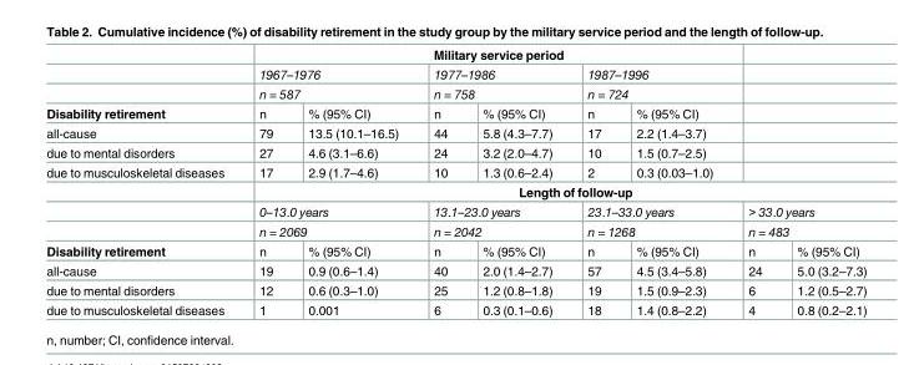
<table><thead><tr><td rowspan="4">Disability retirement</td><td colspan="6">Military service period</td><td></td><td></td></tr><tr><td rowspan="2" colspan="2">1967–1976 n = 587</td><td rowspan="2" colspan="2">1977–1986 n = 758</td><td rowspan="2" colspan="2">1987–1996 n = 724</td><td rowspan="3" colspan="2"></td></tr><tr></tr><tr><td>n</td><td>% (95% CI)</td><td>n</td><td>% (95% CI)</td><td>n</td><td>% (95% CI)</td></tr></thead><tbody><tr><td>all-cause</td><td>79</td><td>13.5 (10.1–16.5)</td><td>44</td><td>5.8 (4.3–7.7)</td><td>17</td><td>2.2 (1.4–3.7)</td><td colspan="2"></td></tr><tr><td>due to mental disorders</td><td>27</td><td>4.6 (3.1–6.6)</td><td>24</td><td>3.2 (2.0–4.7)</td><td>10</td><td>1.5 (0.7–2.5)</td><td colspan="2"></td></tr><tr><td rowspan="4">due to musculoskeletal diseases</td><td>17</td><td>2.9 (1.7–4.6)</td><td>10</td><td>1.3 (0.6–2.4)</td><td>2</td><td>0.3 (0.03–1.0)</td><td colspan="2"></td></tr><tr><td colspan="8">Length of follow-up</td></tr><tr><td colspan="2">0–13.0 years</td><td colspan="2">13.1–23.0 years</td><td colspan="2">23.1–33.0 years</td><td colspan="2">&gt; 33.0 years</td></tr><tr><td colspan="2">n = 2069</td><td colspan="2">n = 2042</td><td colspan="2">n = 1268</td><td colspan="2">n = 483</td></tr><tr><td>Disability retirement</td><td>n</td><td>% (95% CI)</td><td>n</td><td>% (95% CI)</td><td>n</td><td>% (95% CI)</td><td>n</td><td>% (95% CI)</td></tr><tr><td>all-cause</td><td>19</td><td>0.9 (0.6–1.4)</td><td>40</td><td>2.0 (1.4–2.7)</td><td>57</td><td>4.5 (3.4–5.8)</td><td>24</td><td>5.0 (3.2–7.3)</td></tr><tr><td>due to mental disorders</td><td>12</td><td>0.6 (0.3–1.0)</td><td>25</td><td>1.2 (0.8–1.8)</td><td>19</td><td>1.5 (0.9–2.3)</td><td>6</td><td>1.2 (0.5–2.7)</td></tr><tr><td>due to musculoskeletal diseases</td><td>1</td><td>0.001</td><td>6</td><td>0.3 (0.1–0.6)</td><td>18</td><td>1.4 (0.8–2.2)</td><td>4</td><td>0.8 (0.2–2.1)</td></tr></tbody></table>